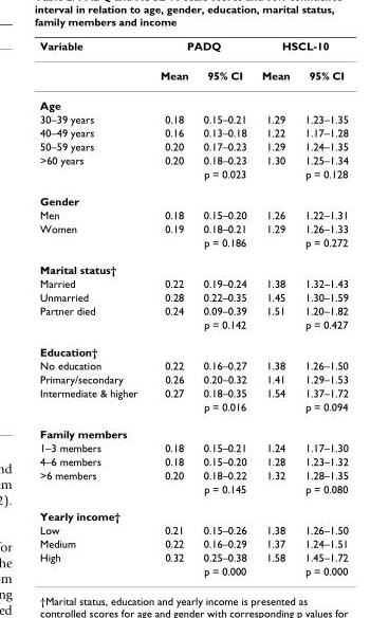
<table><thead><tr><td rowspan="2">Variable</td><td colspan="2">PADQ</td><td colspan="2">HSCL-10</td></tr><tr><td>Mean</td><td>95% CI</td><td>Mean</td><td>95% CI</td></tr></thead><tbody><tr><td colspan="5">Age</td></tr><tr><td>30–39 years</td><td>0.18</td><td>0.15–0.21</td><td>1.29</td><td>1.23–1.35</td></tr><tr><td>40–49 years</td><td>0.16</td><td>0.13–0.18</td><td>1.22</td><td>1.17–1.28</td></tr><tr><td>50–59 years</td><td>0.20</td><td>0.17–0.23</td><td>1.29</td><td>1.24–1.35</td></tr><tr><td rowspan="2">&gt;60 years</td><td>0.20</td><td>0.18–0.23</td><td>1.30</td><td>1.25–1.34</td></tr><tr><td></td><td>p = 0.023</td><td></td><td>p = 0.128</td></tr><tr><td colspan="5">Gender</td></tr><tr><td>Men</td><td>0.18</td><td>0.15–0.20</td><td>1.26</td><td>1.22–1.31</td></tr><tr><td rowspan="2">Women</td><td>0.19</td><td>0.18–0.21</td><td>1.29</td><td>1.26–1.33</td></tr><tr><td></td><td>p = 0.186</td><td></td><td>p = 0.272</td></tr><tr><td colspan="5">Marital status†</td></tr><tr><td>Married</td><td>0.22</td><td>0.19–0.24</td><td>1.38</td><td>1.32–1.43</td></tr><tr><td>Unmarried</td><td>0.28</td><td>0.22–0.35</td><td>1.45</td><td>1.30–1.59</td></tr><tr><td rowspan="2">Partner died</td><td>0.24</td><td>0.09–0.39</td><td>1.51</td><td>1.20–1.82</td></tr><tr><td></td><td>p = 0.142</td><td></td><td>p = 0.427</td></tr><tr><td colspan="5">Education†</td></tr><tr><td>No education</td><td>0.22</td><td>0.16–0.27</td><td>1.38</td><td>1.26–1.50</td></tr><tr><td>Primary/secondary</td><td>0.26</td><td>0.20–0.32</td><td>1.41</td><td>1.29–1.53</td></tr><tr><td rowspan="2">Intermediate &amp; higher</td><td>0.27</td><td>0.18–0.35</td><td>1.54</td><td>1.37–1.72</td></tr><tr><td></td><td>p = 0.016</td><td></td><td>p = 0.094</td></tr><tr><td colspan="5">Family members</td></tr><tr><td>1–3 members</td><td>0.18</td><td>0.15–0.21</td><td>1.24</td><td>1.17–1.30</td></tr><tr><td>4–6 members</td><td>0.18</td><td>0.15–0.20</td><td>1.28</td><td>1.23–1.32</td></tr><tr><td rowspan="2">&gt;6 members</td><td>0.20</td><td>0.18–0.22</td><td>1.32</td><td>1.28–1.35</td></tr><tr><td></td><td>p = 0.145</td><td></td><td>p = 0.080</td></tr><tr><td colspan="5">Yearly income†</td></tr><tr><td>Low</td><td>0.21</td><td>0.15–0.26</td><td>1.38</td><td>1.26–1.50</td></tr><tr><td>Medium</td><td>0.22</td><td>0.16–0.29</td><td>1.37</td><td>1.24–1.51</td></tr><tr><td rowspan="2">High</td><td>0.32</td><td>0.25–0.38</td><td>1.58</td><td>1.45–1.72</td></tr><tr><td></td><td>p = 0.000</td><td></td><td>p = 0.000</td></tr></tbody></table>